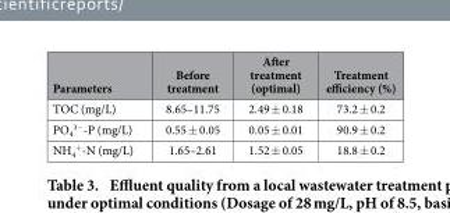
<table><thead><tr><td>Parameters</td><td>Before treatment</td><td>After treatment (optimal)</td><td>Treatment efficiency (%)</td></tr></thead><tbody><tr><td>TOC (mg/L)</td><td>8.65–11.75</td><td>2.49 ± 0.18</td><td>73.2 ± 0.2</td></tr><tr><td>PO<sub>4</sub> <sup>3−</sup>-P (mg/L)</td><td>0.55 ± 0.05</td><td>0.05 ± 0.01</td><td>90.9 ± 0.2</td></tr><tr><td>NH<sub>4</sub> <sup>+</sup>-N (mg/L)</td><td>1.65–2.61</td><td>1.52 ± 0.05</td><td>18.8 ± 0.2</td></tr></tbody></table>